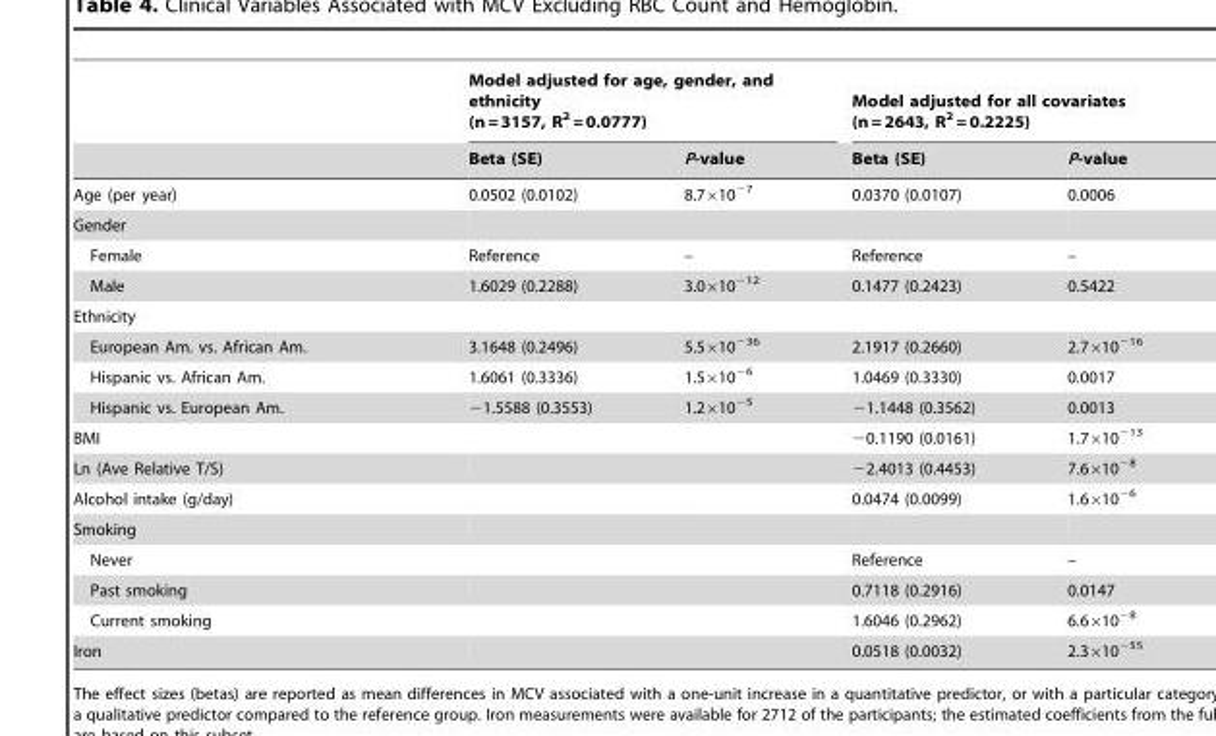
<table><thead><tr><td rowspan="2"></td><td colspan="2">Model adjusted for age, gender, and ethnicity (n = 3157, R<sup>2</sup> = 0.0777)</td><td colspan="2">Model adjusted for all covariates (n = 2643, R<sup>2</sup> = 0.2225)</td></tr><tr><td>Beta (SE)</td><td>P-value</td><td>Beta (SE)</td><td>P-value</td></tr></thead><tbody><tr><td>Age (per year)</td><td>0.0502 (0.0102)</td><td>8.7×10<sup>−7</sup></td><td>0.0370 (0.0107)</td><td>0.0006</td></tr><tr><td colspan="5">Gender</td></tr><tr><td>Female</td><td>Reference</td><td>–</td><td>Reference</td><td>–</td></tr><tr><td>Male</td><td>1.6029 (0.2288)</td><td>3.0×10<sup>−12</sup></td><td>0.1477 (0.2423)</td><td>0.5422</td></tr><tr><td colspan="5">Ethnicity</td></tr><tr><td>European Am. vs. African Am.</td><td>3.1648 (0.2496)</td><td>5.5×10<sup>−36</sup></td><td>2.1917 (0.2660)</td><td>2.7×10<sup>−16</sup></td></tr><tr><td>Hispanic vs. African Am.</td><td>1.6061 (0.3336)</td><td>1.5×10<sup>−6</sup></td><td>1.0469 (0.3330)</td><td>0.0017</td></tr><tr><td>Hispanic vs. European Am.</td><td>−1.5588 (0.3553)</td><td>1.2×10<sup>−5</sup></td><td>−1.1448 (0.3562)</td><td>0.0013</td></tr><tr><td>BMI</td><td></td><td></td><td>−0.1190 (0.0161)</td><td>1.7×10<sup>−13</sup></td></tr><tr><td>Ln (Ave Relative T/S)</td><td></td><td></td><td>−2.4013 (0.4453)</td><td>7.6×10<sup>−8</sup></td></tr><tr><td>Alcohol intake (g/day)</td><td></td><td></td><td>0.0474 (0.0099)</td><td>1.6×10<sup>−6</sup></td></tr><tr><td colspan="5">Smoking</td></tr><tr><td>Never</td><td></td><td></td><td>Reference</td><td>–</td></tr><tr><td>Past smoking</td><td></td><td></td><td>0.7118 (0.2916)</td><td>0.0147</td></tr><tr><td>Current smoking</td><td></td><td></td><td>1.6046 (0.2962)</td><td>6.6×10<sup>−8</sup></td></tr><tr><td>Iron</td><td></td><td></td><td>0.0518 (0.0032)</td><td>2.3×10<sup>−55</sup></td></tr></tbody></table>